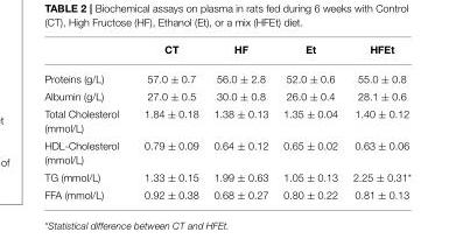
<table><thead><tr><td></td><td>CT</td><td>HF</td><td>Et</td><td>HFEt</td></tr></thead><tbody><tr><td>Proteins (g/L)</td><td>57.0 ± 0.7</td><td>56.0 ± 2.8</td><td>52.0 ± 0.6</td><td>55.0 ± 0.8</td></tr><tr><td>Albumin (g/L)</td><td>27.0 ± 0.5</td><td>30.0 ± 0.8</td><td>26.0 ± 0.4</td><td>28.1 ± 0.6</td></tr><tr><td>Total Cholesterol (mmol/L)</td><td>1.84 ± 0.18</td><td>1.38 ± 0.13</td><td>1.35 ± 0.04</td><td>1.40 ± 0.12</td></tr><tr><td>HDL-Cholesterol (mmol/L)</td><td>0.79 ± 0.09</td><td>0.64 ± 0.12</td><td>0.65 ± 0.02</td><td>0.63 ± 0.06</td></tr><tr><td>TG (mmol/L)</td><td>1.33 ± 0.15</td><td>1.99 ± 0.63</td><td>1.05 ± 0.13</td><td>2.25 ± 0.31*</td></tr><tr><td>FFA (mmol/L)</td><td>0.92 ± 0.38</td><td>0.68 ± 0.27</td><td>0.80 ± 0.22</td><td>0.81 ± 0.13</td></tr></tbody></table>